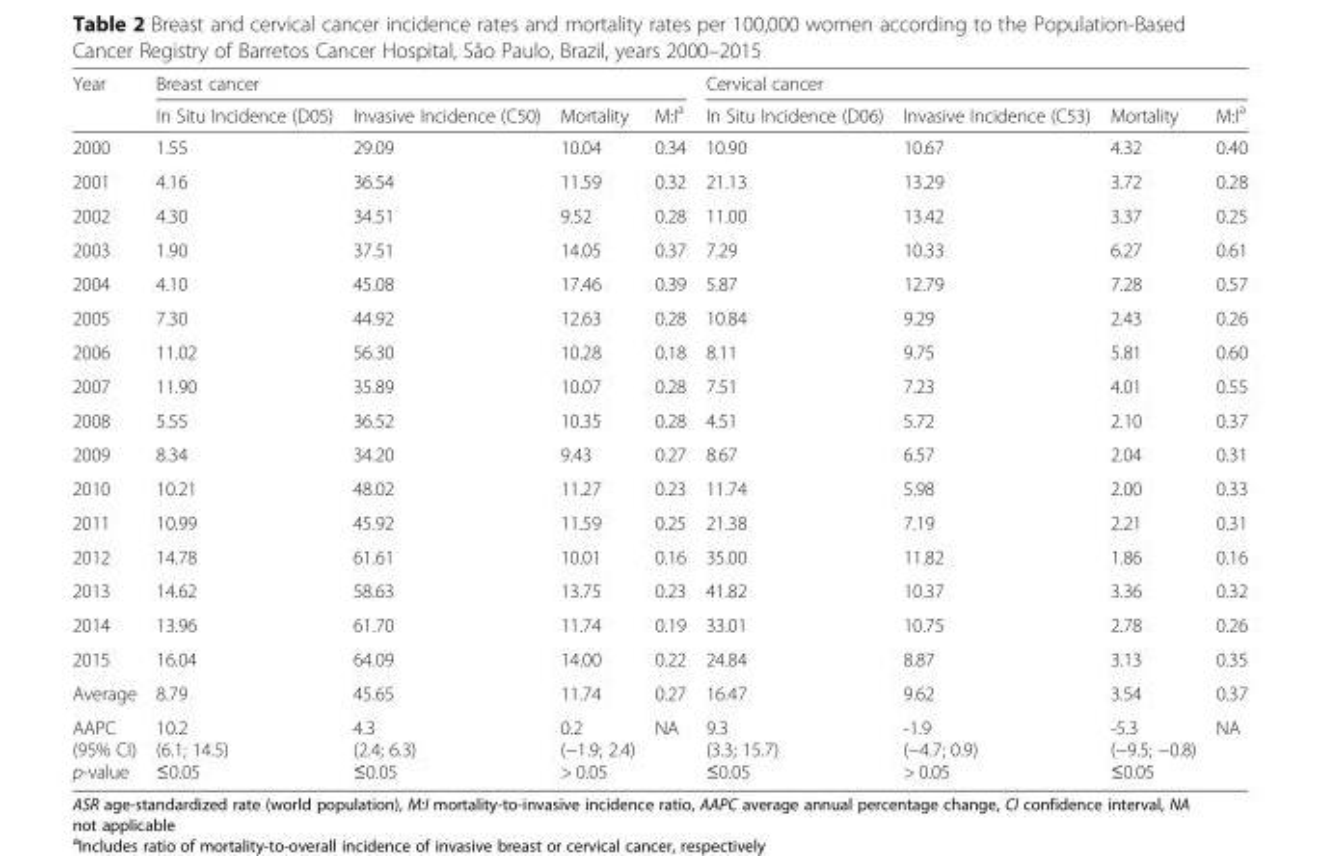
<table><thead><tr><td rowspan="2">Year</td><td colspan="4">Breast cancer</td><td colspan="4">Cervical cancer</td></tr><tr><td>In Situ Incidence (D05)</td><td>Invasive Incidence (C50)</td><td>Mortality</td><td>M:I<sup>a</sup></td><td>In Situ Incidence (D06)</td><td>Invasive Incidence (C53)</td><td>Mortality</td><td>M:I<sup>a</sup></td></tr></thead><tbody><tr><td>2000</td><td>1.55</td><td>29.09</td><td>10.04</td><td>0.34</td><td>10.90</td><td>10.67</td><td>4.32</td><td>0.40</td></tr><tr><td>2001</td><td>4.16</td><td>36.54</td><td>11.59</td><td>0.32</td><td>21.13</td><td>13.29</td><td>3.72</td><td>0.28</td></tr><tr><td>2002</td><td>4.30</td><td>34.51</td><td>9.52</td><td>0.28</td><td>11.00</td><td>13.42</td><td>3.37</td><td>0.25</td></tr><tr><td>2003</td><td>1.90</td><td>37.51</td><td>14.05</td><td>0.37</td><td>7.29</td><td>10.33</td><td>6.27</td><td>0.61</td></tr><tr><td>2004</td><td>4.10</td><td>45.08</td><td>17.46</td><td>0.39</td><td>5.87</td><td>12.79</td><td>7.28</td><td>0.57</td></tr><tr><td>2005</td><td>7.30</td><td>44.92</td><td>12.63</td><td>0.28</td><td>10.84</td><td>9.29</td><td>2.43</td><td>0.26</td></tr><tr><td>2006</td><td>11.02</td><td>56.30</td><td>10.28</td><td>0.18</td><td>8.11</td><td>9.75</td><td>5.81</td><td>0.60</td></tr><tr><td>2007</td><td>11.90</td><td>35.89</td><td>10.07</td><td>0.28</td><td>7.51</td><td>7.23</td><td>4.01</td><td>0.55</td></tr><tr><td>2008</td><td>5.55</td><td>36.52</td><td>10.35</td><td>0.28</td><td>4.51</td><td>5.72</td><td>2.10</td><td>0.37</td></tr><tr><td>2009</td><td>8.34</td><td>34.20</td><td>9.43</td><td>0.27</td><td>8.67</td><td>6.57</td><td>2.04</td><td>0.31</td></tr><tr><td>2010</td><td>10.21</td><td>48.02</td><td>11.27</td><td>0.23</td><td>11.74</td><td>5.98</td><td>2.00</td><td>0.33</td></tr><tr><td>2011</td><td>10.99</td><td>45.92</td><td>11.59</td><td>0.25</td><td>21.38</td><td>7.19</td><td>2.21</td><td>0.31</td></tr><tr><td>2012</td><td>14.78</td><td>61.61</td><td>10.01</td><td>0.16</td><td>35.00</td><td>11.82</td><td>1.86</td><td>0.16</td></tr><tr><td>2013</td><td>14.62</td><td>58.63</td><td>13.75</td><td>0.23</td><td>41.82</td><td>10.37</td><td>3.36</td><td>0.32</td></tr><tr><td>2014</td><td>13.96</td><td>61.70</td><td>11.74</td><td>0.19</td><td>33.01</td><td>10.75</td><td>2.78</td><td>0.26</td></tr><tr><td>2015</td><td>16.04</td><td>64.09</td><td>14.00</td><td>0.22</td><td>24.84</td><td>8.87</td><td>3.13</td><td>0.35</td></tr><tr><td>Average</td><td>8.79</td><td>45.65</td><td>11.74</td><td>0.27</td><td>16.47</td><td>9.62</td><td>3.54</td><td>0.37</td></tr><tr><td>AAPC (95% CI) p-value</td><td>10.2 (6.1; 14.5) ≤0.05</td><td>4.3 (2.4; 6.3) ≤0.05</td><td>0.2 (−1.9; 2.4) &gt; 0.05</td><td>NA</td><td>9.3 (3.3; 15.7) ≤0.05</td><td>-1.9 (−4.7; 0.9) &gt; 0.05</td><td>-5.3 (−9.5; −0.8) ≤0.05</td><td>NA</td></tr></tbody></table>